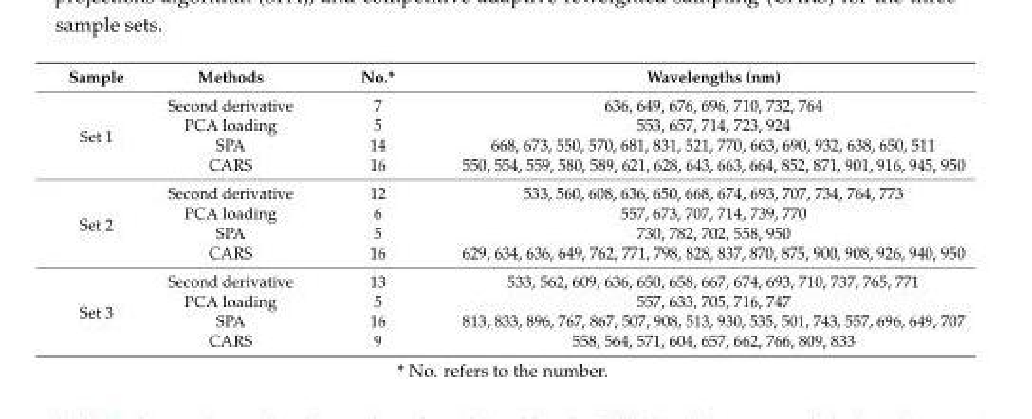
<table><thead><tr><td>Sample</td><td>Methods</td><td>No.*</td><td>Wavelengths (nm)</td></tr></thead><tbody><tr><td rowspan="4">Set 1</td><td>Second derivative</td><td>7</td><td>636, 649, 676, 696, 710, 732, 764</td></tr><tr><td>PCA loading</td><td>5</td><td>553, 657, 714, 723, 924</td></tr><tr><td>SPA</td><td>14</td><td>668, 673, 550, 570, 681, 831, 521, 770, 663, 690, 932, 638, 650, 511</td></tr><tr><td>CARS</td><td>16</td><td>550, 554, 559, 580, 589, 621, 628, 643, 663, 664, 852, 871, 901, 916, 945, 950</td></tr><tr><td rowspan="4">Set 2</td><td>Second derivative</td><td>12</td><td>533, 560, 608, 636, 650, 668, 674, 693, 707, 734, 764, 773</td></tr><tr><td>PCA loading</td><td>6</td><td>557, 673, 707, 714, 739, 770</td></tr><tr><td>SPA</td><td>5</td><td>730, 782, 702, 558, 950</td></tr><tr><td>CARS</td><td>16</td><td>629, 634, 636, 649, 762, 771, 798, 828, 837, 870, 875, 900, 908, 926, 940, 950</td></tr><tr><td rowspan="4">Set 3</td><td>Second derivative</td><td>13</td><td>533, 562, 609, 636, 650, 658, 667, 674, 693, 710, 737, 765, 771</td></tr><tr><td>PCA loading</td><td>5</td><td>557, 633, 705, 716, 747</td></tr><tr><td>SPA</td><td>16</td><td>813, 833, 896, 767, 867, 507, 908, 513, 930, 535, 501, 743, 557, 696, 649, 707</td></tr><tr><td>CARS</td><td>9</td><td>558, 564, 571, 604, 657, 662, 766, 809, 833</td></tr></tbody></table>